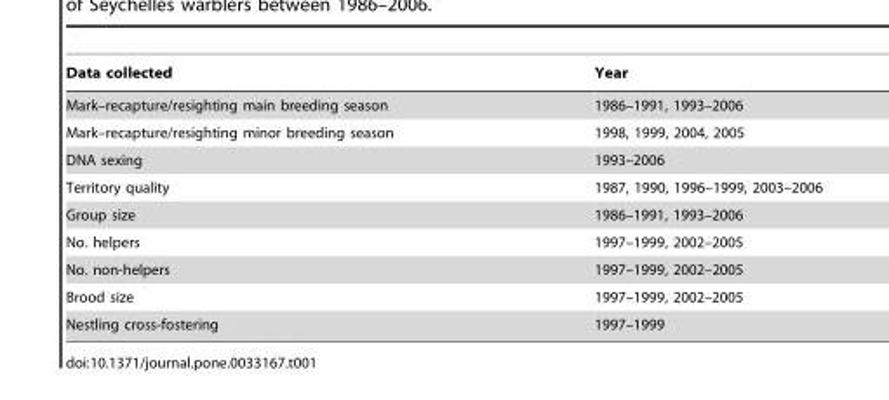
<table><thead><tr><td>Data collected</td><td>Year</td></tr></thead><tbody><tr><td>Mark–recapture/resighting main breeding season</td><td>1986–1991, 1993–2006</td></tr><tr><td>Mark–recapture/resighting minor breeding season</td><td>1998, 1999, 2004, 2005</td></tr><tr><td>DNA sexing</td><td>1993–2006</td></tr><tr><td>Territory quality</td><td>1987, 1990, 1996–1999, 2003–2006</td></tr><tr><td>Group size</td><td>1986–1991, 1993–2006</td></tr><tr><td>No. helpers</td><td>1997–1999, 2002–2005</td></tr><tr><td>No. non-helpers</td><td>1997–1999, 2002–2005</td></tr><tr><td>Brood size</td><td>1997–1999, 2002–2005</td></tr><tr><td>Nestling cross-fostering</td><td>1997–1999</td></tr></tbody></table>